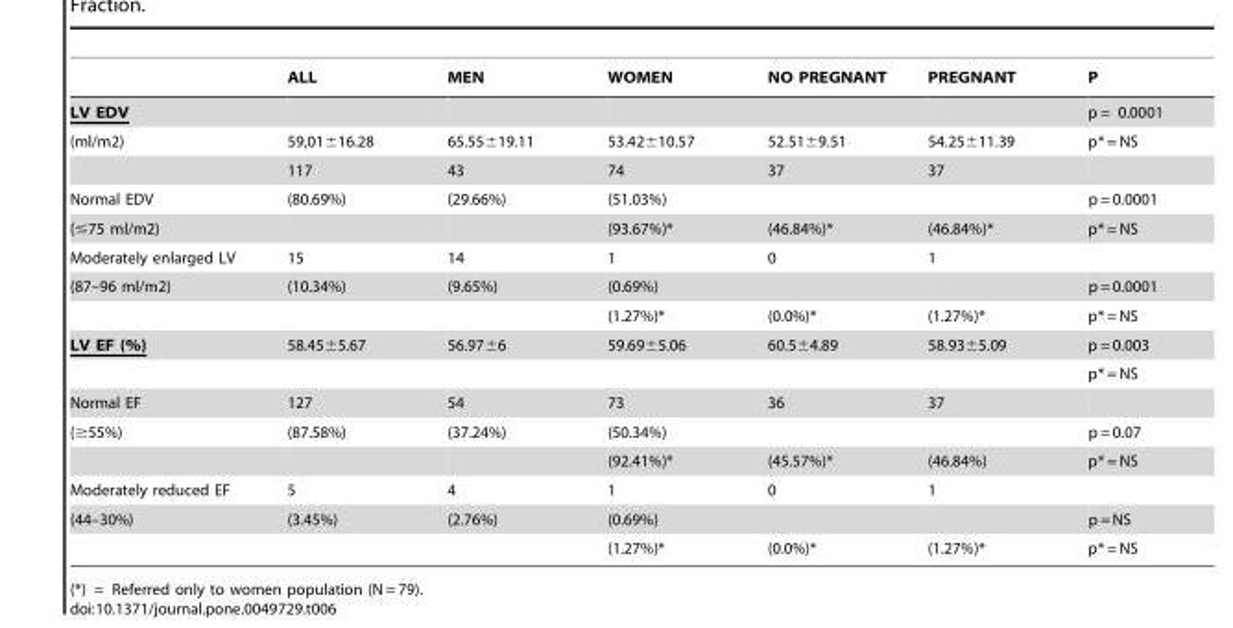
<table><thead><tr><td></td><td>ALL</td><td>MEN</td><td>WOMEN</td><td>NO PREGNANT</td><td>PREGNANT</td><td>P</td></tr></thead><tbody><tr><td>LV EDV</td><td></td><td></td><td></td><td></td><td></td><td>p = 0.0001</td></tr><tr><td rowspan="2">(ml/m2)</td><td>59,01±16.28</td><td>65.55±19.11</td><td>53.42±10.57</td><td>52.51±9.51</td><td>54.25±11.39</td><td>p* = NS</td></tr><tr><td>117</td><td>43</td><td>74</td><td>37</td><td>37</td><td></td></tr><tr><td>Normal EDV</td><td>(80.69%)</td><td>(29.66%)</td><td>(51.03%)</td><td></td><td></td><td>p = 0.0001</td></tr><tr><td>(≤75 ml/m2)</td><td></td><td></td><td>(93.67%)*</td><td>(46.84%)*</td><td>(46.84%)*</td><td>p* = NS</td></tr><tr><td>Moderately enlarged LV</td><td>15</td><td>14</td><td>1</td><td>0</td><td>1</td><td></td></tr><tr><td rowspan="2">(87–96 ml/m2)</td><td>(10.34%)</td><td>(9.65%)</td><td>(0.69%)</td><td></td><td></td><td>p = 0.0001</td></tr><tr><td></td><td></td><td>(1.27%)*</td><td>(0.0%)*</td><td>(1.27%)*</td><td>p* = NS</td></tr><tr><td rowspan="2">LV EF (%)</td><td>58.45±5.67</td><td>56.97±6</td><td>59.69±5.06</td><td>60.5±4.89</td><td>58.93±5.09</td><td>p = 0.003</td></tr><tr><td></td><td></td><td></td><td></td><td></td><td>p* = NS</td></tr><tr><td>Normal EF</td><td>127</td><td>54</td><td>73</td><td>36</td><td>37</td><td></td></tr><tr><td rowspan="2">(≥55%)</td><td>(87.58%)</td><td>(37.24%)</td><td>(50.34%)</td><td></td><td></td><td>p = 0.07</td></tr><tr><td></td><td></td><td>(92.41%)*</td><td>(45.57%)*</td><td>(46.84%)</td><td>p* = NS</td></tr><tr><td>Moderately reduced EF</td><td>5</td><td>4</td><td>1</td><td>0</td><td>1</td><td></td></tr><tr><td rowspan="2">(44–30%)</td><td>(3.45%)</td><td>(2.76%)</td><td>(0.69%)</td><td></td><td></td><td>p = NS</td></tr><tr><td></td><td></td><td>(1.27%)*</td><td>(0.0%)*</td><td>(1.27%)*</td><td>p* = NS</td></tr></tbody></table>